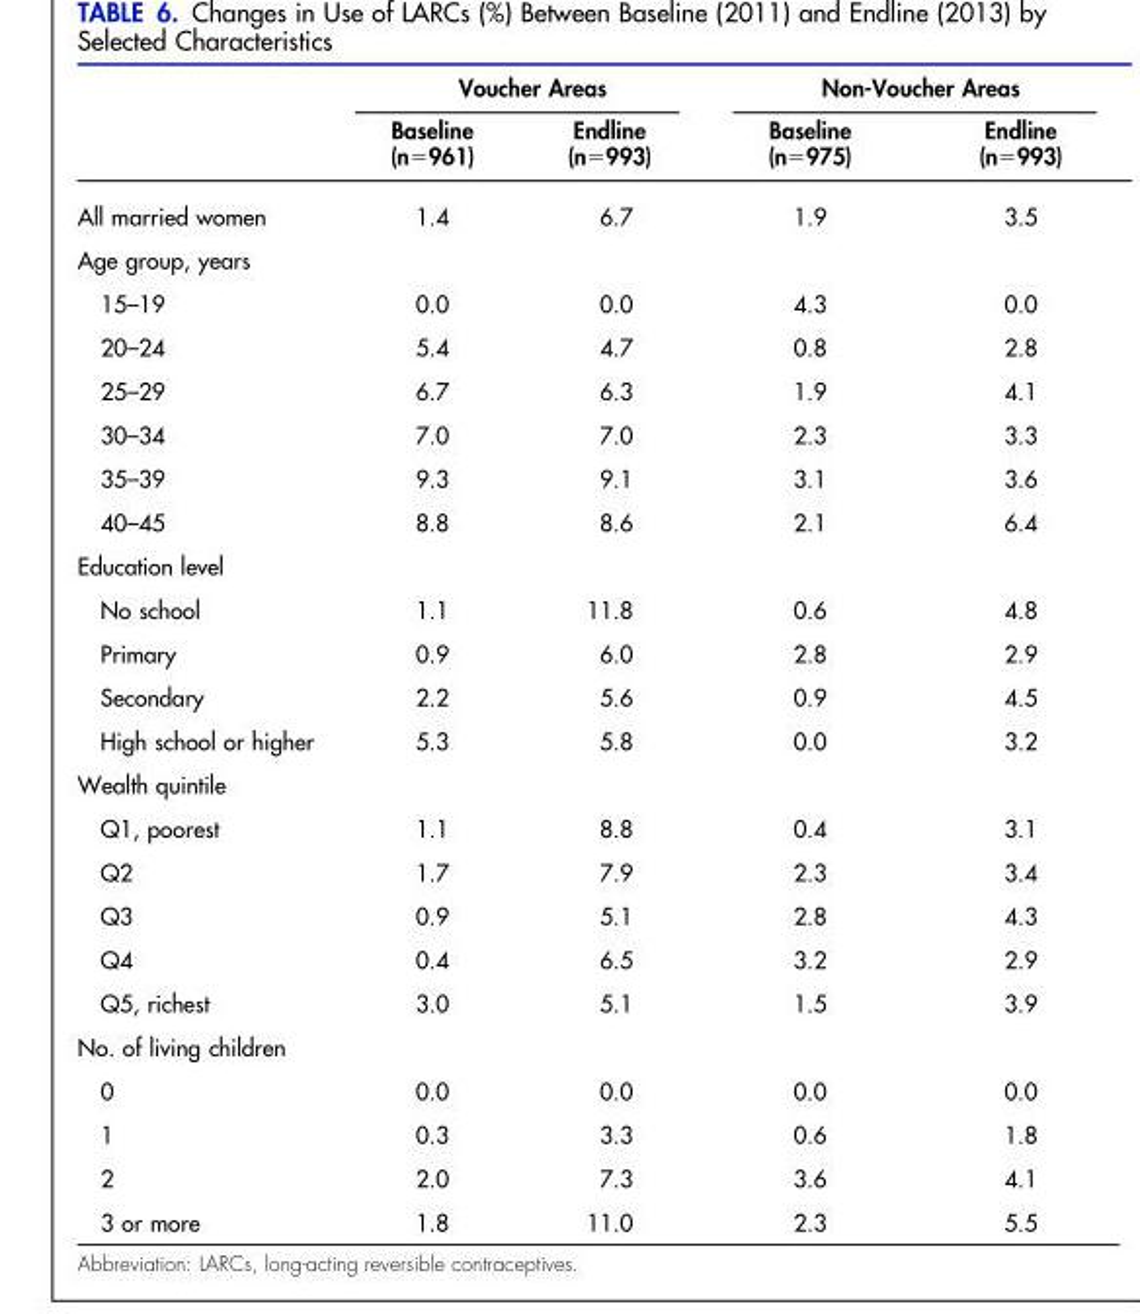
<table><thead><tr><td rowspan="2"></td><td colspan="2">Voucher Areas</td><td colspan="2">Non-Voucher Areas</td></tr><tr><td>Baseline (n=961)</td><td>Endline (n=993)</td><td>Baseline (n=975)</td><td>Endline (n=993)</td></tr></thead><tbody><tr><td>All married women</td><td>1.4</td><td>6.7</td><td>1.9</td><td>3.5</td></tr><tr><td colspan="5">Age group, years</td></tr><tr><td>15–19</td><td>0.0</td><td>0.0</td><td>4.3</td><td>0.0</td></tr><tr><td>20–24</td><td>5.4</td><td>4.7</td><td>0.8</td><td>2.8</td></tr><tr><td>25–29</td><td>6.7</td><td>6.3</td><td>1.9</td><td>4.1</td></tr><tr><td>30–34</td><td>7.0</td><td>7.0</td><td>2.3</td><td>3.3</td></tr><tr><td>35–39</td><td>9.3</td><td>9.1</td><td>3.1</td><td>3.6</td></tr><tr><td>40–45</td><td>8.8</td><td>8.6</td><td>2.1</td><td>6.4</td></tr><tr><td colspan="5">Education level</td></tr><tr><td>No school</td><td>1.1</td><td>11.8</td><td>0.6</td><td>4.8</td></tr><tr><td>Primary</td><td>0.9</td><td>6.0</td><td>2.8</td><td>2.9</td></tr><tr><td>Secondary</td><td>2.2</td><td>5.6</td><td>0.9</td><td>4.5</td></tr><tr><td>High school or higher</td><td>5.3</td><td>5.8</td><td>0.0</td><td>3.2</td></tr><tr><td colspan="5">Wealth quintile</td></tr><tr><td>Q1, poorest</td><td>1.1</td><td>8.8</td><td>0.4</td><td>3.1</td></tr><tr><td>Q2</td><td>1.7</td><td>7.9</td><td>2.3</td><td>3.4</td></tr><tr><td>Q3</td><td>0.9</td><td>5.1</td><td>2.8</td><td>4.3</td></tr><tr><td>Q4</td><td>0.4</td><td>6.5</td><td>3.2</td><td>2.9</td></tr><tr><td>Q5, richest</td><td>3.0</td><td>5.1</td><td>1.5</td><td>3.9</td></tr><tr><td colspan="5">No. of living children</td></tr><tr><td>0</td><td>0.0</td><td>0.0</td><td>0.0</td><td>0.0</td></tr><tr><td>1</td><td>0.3</td><td>3.3</td><td>0.6</td><td>1.8</td></tr><tr><td>2</td><td>2.0</td><td>7.3</td><td>3.6</td><td>4.1</td></tr><tr><td>3 or more</td><td>1.8</td><td>11.0</td><td>2.3</td><td>5.5</td></tr></tbody></table>